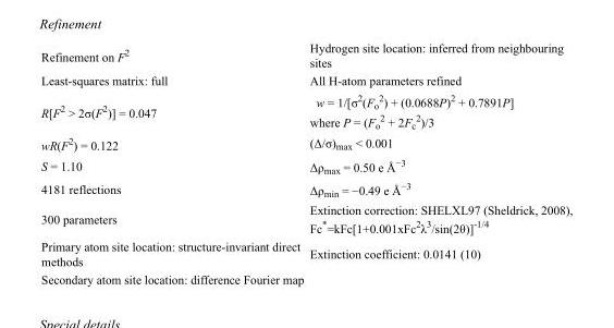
<table><tbody><tr><td>Refinement on F<sup>2</sup></td><td>Hydrogen site location: inferred from neighbouring sites</td></tr><tr><td>Least-squares matrix: full</td><td>All H-atom parameters refined</td></tr><tr><td>R[F<sup>2</sup> &gt; 2σ(F<sup>2</sup>)] = 0.047</td><td>w = 1/[σ<sup>2</sup>(F<sub>o</sub> <sup>2</sup>) + (0.0688P)<sup>2</sup> + 0.7891P] where P = (F<sub>o</sub> <sup>2</sup> + 2F<sub>c</sub> <sup>2</sup>)/3</td></tr><tr><td>wR(F<sup>2</sup>) = 0.122</td><td>(Δ/σ)<sub>max</sub> &lt; 0.001</td></tr><tr><td>S = 1.10</td><td>Δρ<sub>max</sub> = 0.50 e Å<sup>−3</sup></td></tr><tr><td>4181 reflections</td><td>Δρ<sub>min</sub> = −0.49 e Å<sup>−3</sup></td></tr><tr><td>300 parameters</td><td>Extinction correction: SHELXL97 (Sheldrick, 2008), Fc*=kFc[1+0.001xFc<sup>2</sup>λ<sup>3</sup>/sin(2θ)]<sup>-1/4</sup></td></tr><tr><td>Primary atom site location: structure-invariant direct methods</td><td>Extinction coefficient: 0.0141 (10)</td></tr><tr><td>Secondary atom site location: difference Fourier map</td><td></td></tr></tbody></table>